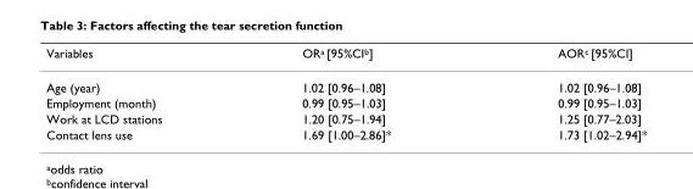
<table><thead><tr><td>Variables</td><td>ORa [95%CIb]</td><td>AORc [95%CI]</td></tr></thead><tbody><tr><td>Age (year)</td><td>1.02 [0.96–1.08]</td><td>1.02 [0.96–1.08]</td></tr><tr><td>Employment (month)</td><td>0.99 [0.95–1.03]</td><td>0.99 [0.95–1.03]</td></tr><tr><td>Work at LCD stations</td><td>1.20 [0.75–1.94]</td><td>1.25 [0.77–2.03]</td></tr><tr><td>Contact lens use</td><td>1.69 [1.00–2.86]*</td><td>1.73 [1.02–2.94]*</td></tr></tbody></table>